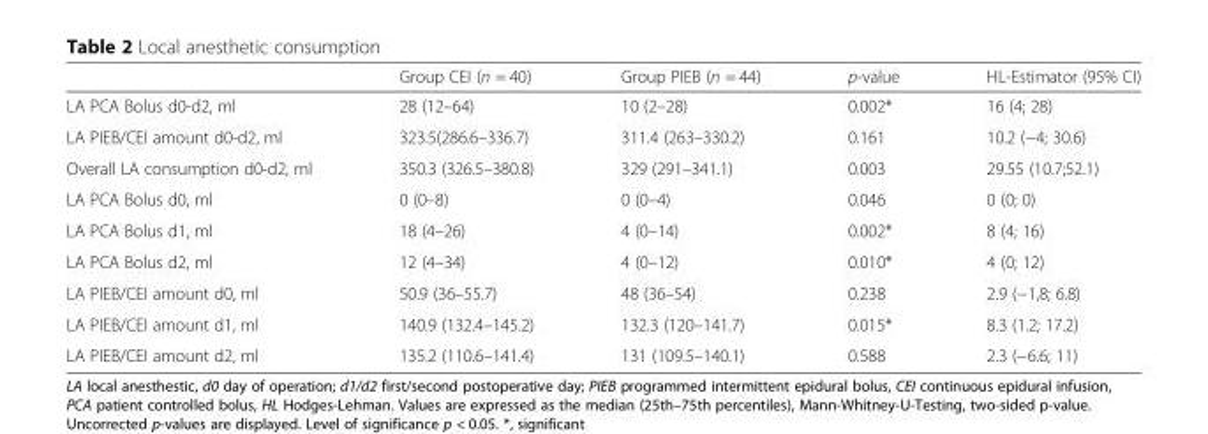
<table><thead><tr><td></td><td>Group CEI (n = 40)</td><td>Group PIEB (n = 44)</td><td>p-value</td><td>HL-Estimator (95% CI)</td></tr></thead><tbody><tr><td>LA PCA Bolus d0-d2, ml</td><td>28 (12–64)</td><td>10 (2–28)</td><td>0.002*</td><td>16 (4; 28)</td></tr><tr><td>LA PIEB/CEI amount d0-d2, ml</td><td>323.5(286.6–336.7)</td><td>311.4 (263–330.2)</td><td>0.161</td><td>10.2 (−4; 30.6)</td></tr><tr><td>Overall LA consumption d0-d2, ml</td><td>350.3 (326.5–380.8)</td><td>329 (291–341.1)</td><td>0.003</td><td>29.55 (10.7;52.1)</td></tr><tr><td>LA PCA Bolus d0, ml</td><td>0 (0–8)</td><td>0 (0–4)</td><td>0.046</td><td>0 (0; 0)</td></tr><tr><td>LA PCA Bolus d1, ml</td><td>18 (4–26)</td><td>4 (0–14)</td><td>0.002*</td><td>8 (4; 16)</td></tr><tr><td>LA PCA Bolus d2, ml</td><td>12 (4–34)</td><td>4 (0–12)</td><td>0.010*</td><td>4 (0; 12)</td></tr><tr><td>LA PIEB/CEI amount d0, ml</td><td>50.9 (36–55.7)</td><td>48 (36–54)</td><td>0.238</td><td>2.9 (−1,8; 6.8)</td></tr><tr><td>LA PIEB/CEI amount d1, ml</td><td>140.9 (132.4–145.2)</td><td>132.3 (120–141.7)</td><td>0.015*</td><td>8.3 (1.2; 17.2)</td></tr><tr><td>LA PIEB/CEI amount d2, ml</td><td>135.2 (110.6–141.4)</td><td>131 (109.5–140.1)</td><td>0.588</td><td>2.3 (−6.6; 11)</td></tr></tbody></table>